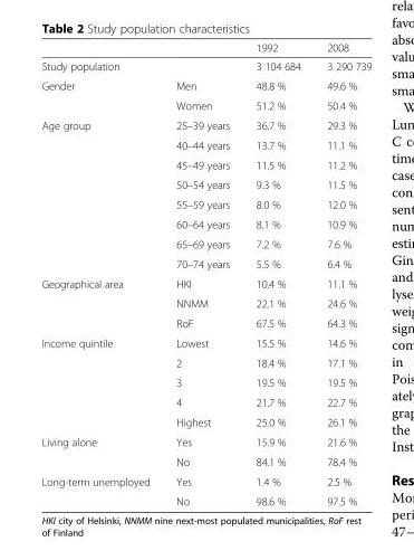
<table><thead><tr><td></td><td></td><td>1992</td><td>2008</td></tr></thead><tbody><tr><td>Study population</td><td></td><td>3 104 684</td><td>3 290 739</td></tr><tr><td rowspan="2">Gender</td><td>Men</td><td>48.8 %</td><td>49.6 %</td></tr><tr><td>Women</td><td>51.2 %</td><td>50.4 %</td></tr><tr><td rowspan="8">Age group</td><td>25–39 years</td><td>36.7 %</td><td>29.3 %</td></tr><tr><td>40–44 years</td><td>13.7 %</td><td>11.1 %</td></tr><tr><td>45–49 years</td><td>11.5 %</td><td>11.2 %</td></tr><tr><td>50–54 years</td><td>9.3 %</td><td>11.5 %</td></tr><tr><td>55–59 years</td><td>8.0 %</td><td>12.0 %</td></tr><tr><td>60–64 years</td><td>8.1 %</td><td>10.9 %</td></tr><tr><td>65–69 years</td><td>7.2 %</td><td>7.6 %</td></tr><tr><td>70–74 years</td><td>5.5 %</td><td>6.4 %</td></tr><tr><td rowspan="3">Geographical area</td><td>HKI</td><td>10.4 %</td><td>11.1 %</td></tr><tr><td>NNMM</td><td>22.1 %</td><td>24.6 %</td></tr><tr><td>RoF</td><td>67.5 %</td><td>64.3 %</td></tr><tr><td rowspan="5">Income quintile</td><td>Lowest</td><td>15.5 %</td><td>14.6 %</td></tr><tr><td>2</td><td>18.4 %</td><td>17.1 %</td></tr><tr><td>3</td><td>19.5 %</td><td>19.5 %</td></tr><tr><td>4</td><td>21.7 %</td><td>22.7 %</td></tr><tr><td>Highest</td><td>25.0 %</td><td>26.1 %</td></tr><tr><td rowspan="2">Living alone</td><td>Yes</td><td>15.9 %</td><td>21.6 %</td></tr><tr><td>No</td><td>84.1 %</td><td>78.4 %</td></tr><tr><td rowspan="2">Long-term unemployed</td><td>Yes</td><td>1.4 %</td><td>2.5 %</td></tr><tr><td>No</td><td>98.6 %</td><td>97.5 %</td></tr></tbody></table>